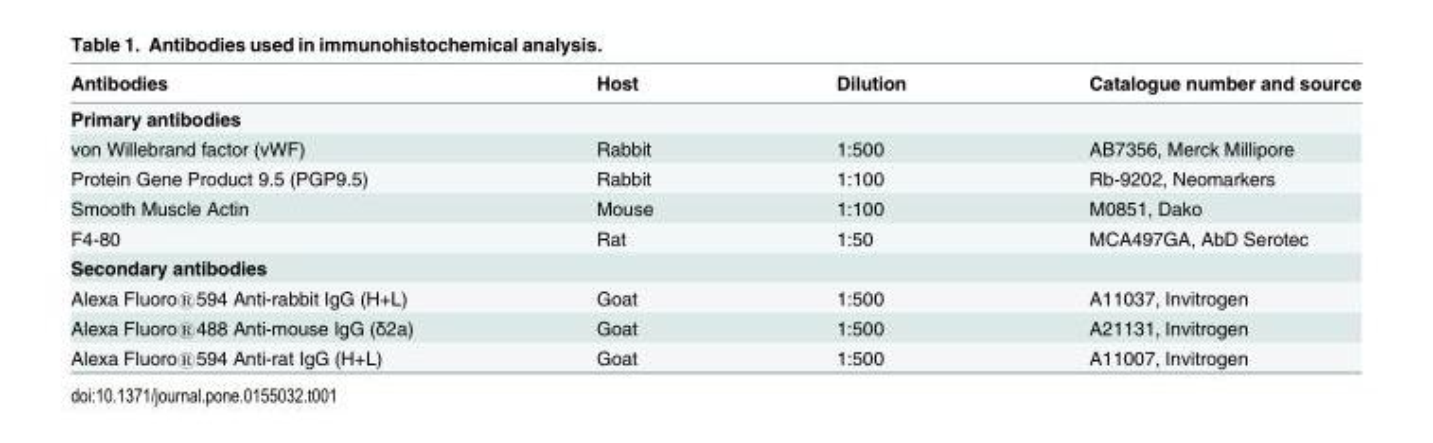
<table><thead><tr><td>Antibodies</td><td>Host</td><td>Dilution</td><td>Catalogue number and source</td></tr></thead><tbody><tr><td colspan="4">Primary antibodies</td></tr><tr><td>von Willebrand factor (vWF)</td><td>Rabbit</td><td>1:500</td><td>AB7356, Merck Millipore</td></tr><tr><td>Protein Gene Product 9.5 (PGP9.5)</td><td>Rabbit</td><td>1:100</td><td>Rb-9202, Neomarkers</td></tr><tr><td>Smooth Muscle Actin</td><td>Mouse</td><td>1:100</td><td>M0851, Dako</td></tr><tr><td>F4-80</td><td>Rat</td><td>1:50</td><td>MCA497GA, AbD Serotec</td></tr><tr><td colspan="4">Secondary antibodies</td></tr><tr><td>Alexa Fluoro®594 Anti-rabbit IgG (H+L)</td><td>Goat</td><td>1:500</td><td>A11037, Invitrogen</td></tr><tr><td>Alexa Fluoro®488 Anti-mouse IgG (δ2a)</td><td>Goat</td><td>1:500</td><td>A21131, Invitrogen</td></tr><tr><td>Alexa Fluoro®594 Anti-rat IgG (H+L)</td><td>Goat</td><td>1:500</td><td>A11007, Invitrogen</td></tr></tbody></table>